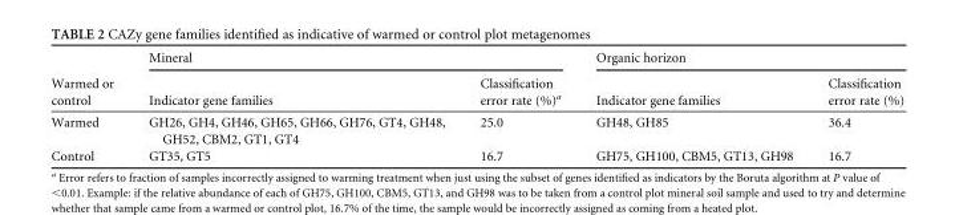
<table><thead><tr><td rowspan="2">Warmed or control</td><td colspan="2">Mineral</td><td colspan="2">Organic horizon</td></tr><tr><td>Indicator gene families</td><td>Classification error rate (%)<sup>a</sup></td><td>Indicator gene families</td><td>Classification error rate (%)</td></tr></thead><tbody><tr><td>Warmed</td><td>GH26, GH4, GH46, GH65, GH66, GH76, GT4, GH48, GH52, CBM2, GT1, GT4</td><td>25.0</td><td>GH48, GH85</td><td>36.4</td></tr><tr><td>Control</td><td>GT35, GT5</td><td>16.7</td><td>GH75, GH100, CBM5, GT13, GH98</td><td>16.7</td></tr></tbody></table>